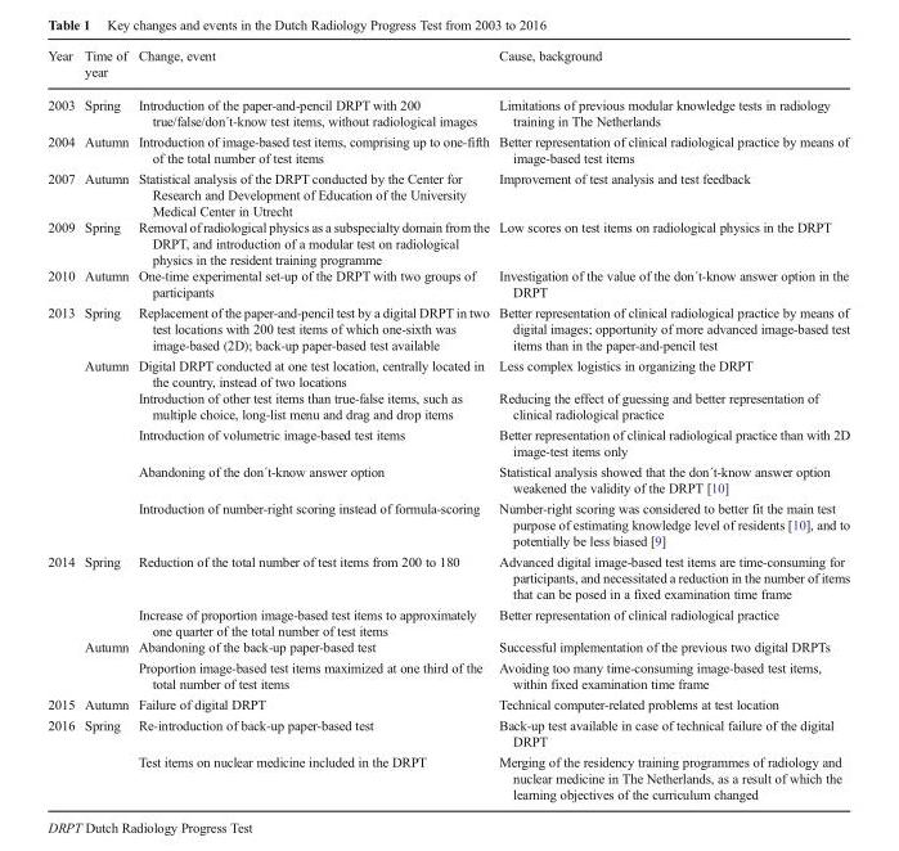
<table><thead><tr><td>Year</td><td>Time of year</td><td>Change, event</td><td>Cause, background</td></tr></thead><tbody><tr><td>2003</td><td>Spring</td><td>Introduction of the paper-and-pencil DRPT with 200 true/false/don´t-know test items, without radiological images</td><td>Limitations of previous modular knowledge tests in radiology training in The Netherlands</td></tr><tr><td>2004</td><td>Autumn</td><td>Introduction of image-based test items, comprising up to one-fifth of the total number of test items</td><td>Better representation of clinical radiological practice by means of image-based test items</td></tr><tr><td>2007</td><td>Autumn</td><td>Statistical analysis of the DRPT conducted by the Center for Research and Development of Education of the University Medical Center in Utrecht</td><td>Improvement of test analysis and test feedback</td></tr><tr><td>2009</td><td>Spring</td><td>Removal of radiological physics as a subspecialty domain from the DRPT, and introduction of a modular test on radiological physics in the resident training programme</td><td>Low scores on test items on radiological physics in the DRPT</td></tr><tr><td>2010</td><td>Autumn</td><td>One-time experimental set-up of the DRPT with two groups of participants</td><td>Investigation of the value of the don´t-know answer option in the DRPT</td></tr><tr><td rowspan="6">2013</td><td>Spring</td><td>Replacement of the paper-and-pencil test by a digital DRPT in two test locations with 200 test items of which one-sixth was image-based (2D); back-up paper-based test available</td><td>Better representation of clinical radiological practice by means of digital images; opportunity of more advanced image-based test items than in the paper-and-pencil test</td></tr><tr><td rowspan="5">Autumn</td><td>Digital DRPT conducted at one test location, centrally located in the country, instead of two locations</td><td>Less complex logistics in organizing the DRPT</td></tr><tr><td>Introduction of other test items than true-false items, such as multiple choice, long-list menu and drag and drop items</td><td>Reducing the effect of guessing and better representation of clinical radiological practice</td></tr><tr><td>Introduction of volumetric image-based test items</td><td>Better representation of clinical radiological practice than with 2D image-test items only</td></tr><tr><td>Abandoning of the don´t-know answer option</td><td>Statistical analysis showed that the don´t-know answer option weakened the validity of the DRPT [10]</td></tr><tr><td>Introduction of number-right scoring instead of formula-scoring</td><td>Number-right scoring was considered to better fit the main test purpose of estimating knowledge level of residents [10], and to potentially be less biased [9]</td></tr><tr><td rowspan="4">2014</td><td rowspan="2">Spring</td><td>Reduction of the total number of test items from 200 to 180</td><td>Advanced digital image-based test items are time-consuming for participants, and necessitated a reduction in the number of items that can be posed in a fixed examination time frame</td></tr><tr><td>Increase of proportion image-based test items to approximately one quarter of the total number of test items</td><td>Better representation of clinical radiological practice</td></tr><tr><td rowspan="2">Autumn</td><td>Abandoning of the back-up paper-based test</td><td>Successful implementation of the previous two digital DRPTs</td></tr><tr><td>Proportion image-based test items maximized at one third of the total number of test items</td><td>Avoiding too many time-consuming image-based test items, within fixed examination time frame</td></tr><tr><td>2015</td><td>Autumn</td><td>Failure of digital DRPT</td><td>Technical computer-related problems at test location</td></tr><tr><td rowspan="2">2016</td><td rowspan="2">Spring</td><td>Re-introduction of back-up paper-based test</td><td>Back-up test available in case of technical failure of the digital DRPT</td></tr><tr><td>Test items on nuclear medicine included in the DRPT</td><td>Merging of the residency training programmes of radiology and nuclear medicine in The Netherlands, as a result of which the learning objectives of the curriculum changed</td></tr></tbody></table>